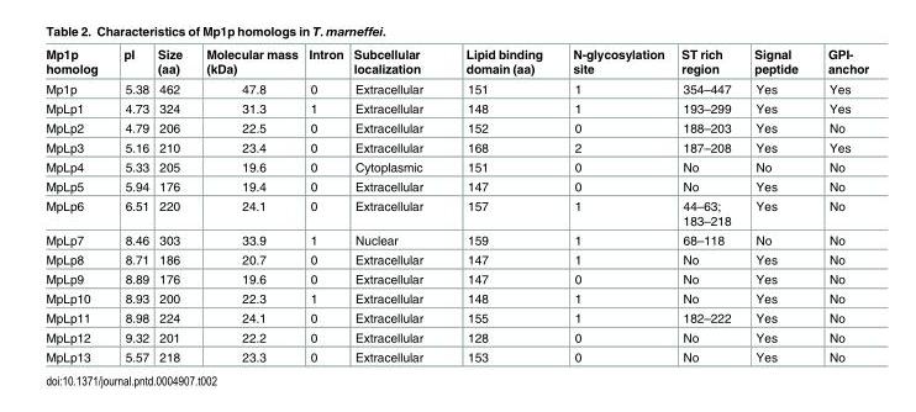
<table><thead><tr><td>Mp1p homolog</td><td>pI</td><td>Size (aa)</td><td>Molecular mass (kDa)</td><td>Intron</td><td>Subcellular localization</td><td>Lipid binding domain (aa)</td><td>N-glycosylation site</td><td>ST rich region</td><td>Signal peptide</td><td>GPI- anchor</td></tr></thead><tbody><tr><td>Mp1p</td><td>5.38</td><td>462</td><td>47.8</td><td>0</td><td>Extracellular</td><td>151</td><td>1</td><td>354–447</td><td>Yes</td><td>Yes</td></tr><tr><td>MpLp1</td><td>4.73</td><td>324</td><td>31.3</td><td>1</td><td>Extracellular</td><td>148</td><td>1</td><td>193–299</td><td>Yes</td><td>Yes</td></tr><tr><td>MpLp2</td><td>4.79</td><td>206</td><td>22.5</td><td>0</td><td>Extracellular</td><td>152</td><td>0</td><td>188–203</td><td>Yes</td><td>No</td></tr><tr><td>MpLp3</td><td>5.16</td><td>210</td><td>23.4</td><td>0</td><td>Extracellular</td><td>168</td><td>2</td><td>187–208</td><td>Yes</td><td>Yes</td></tr><tr><td>MpLp4</td><td>5.33</td><td>205</td><td>19.6</td><td>0</td><td>Cytoplasmic</td><td>151</td><td>0</td><td>No</td><td>No</td><td>No</td></tr><tr><td>MpLp5</td><td>5.94</td><td>176</td><td>19.4</td><td>0</td><td>Extracellular</td><td>147</td><td>0</td><td>No</td><td>Yes</td><td>No</td></tr><tr><td>MpLp6</td><td>6.51</td><td>220</td><td>24.1</td><td>0</td><td>Extracellular</td><td>157</td><td>1</td><td>44–63; 183–218</td><td>Yes</td><td>No</td></tr><tr><td>MpLp7</td><td>8.46</td><td>303</td><td>33.9</td><td>1</td><td>Nuclear</td><td>159</td><td>1</td><td>68–118</td><td>No</td><td>No</td></tr><tr><td>MpLp8</td><td>8.71</td><td>186</td><td>20.7</td><td>0</td><td>Extracellular</td><td>147</td><td>1</td><td>No</td><td>Yes</td><td>No</td></tr><tr><td>MpLp9</td><td>8.89</td><td>176</td><td>19.6</td><td>0</td><td>Extracellular</td><td>147</td><td>0</td><td>No</td><td>Yes</td><td>No</td></tr><tr><td>MpLp10</td><td>8.93</td><td>200</td><td>22.3</td><td>1</td><td>Extracellular</td><td>148</td><td>1</td><td>No</td><td>Yes</td><td>No</td></tr><tr><td>MpLp11</td><td>8.98</td><td>224</td><td>24.1</td><td>0</td><td>Extracellular</td><td>155</td><td>1</td><td>182–222</td><td>Yes</td><td>No</td></tr><tr><td>MpLp12</td><td>9.32</td><td>201</td><td>22.2</td><td>0</td><td>Extracellular</td><td>128</td><td>0</td><td>No</td><td>Yes</td><td>No</td></tr><tr><td>MpLp13</td><td>5.57</td><td>218</td><td>23.3</td><td>0</td><td>Extracellular</td><td>153</td><td>0</td><td>No</td><td>Yes</td><td>No</td></tr></tbody></table>